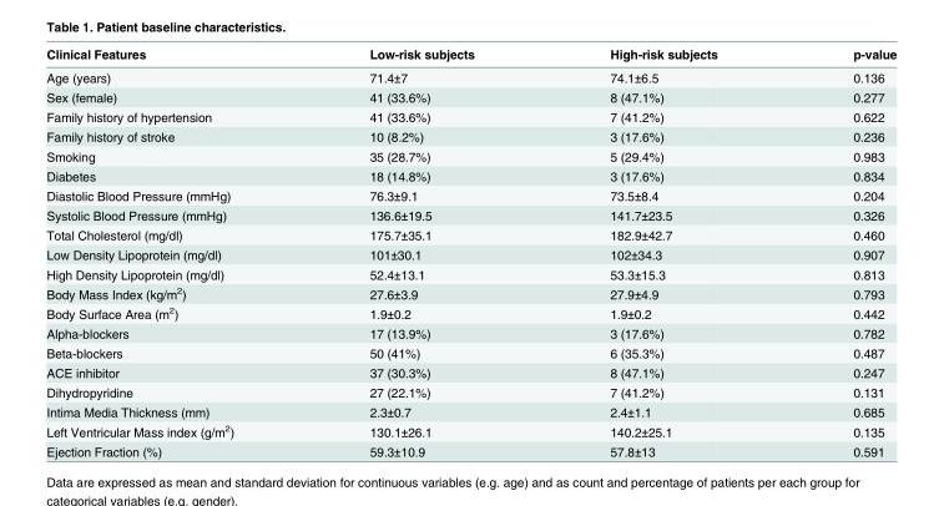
<table><thead><tr><td>Clinical Features</td><td>Low-risk subjects</td><td>High-risk subjects</td><td>p-value</td></tr></thead><tbody><tr><td>Age (years)</td><td>71.4±7</td><td>74.1±6.5</td><td>0.136</td></tr><tr><td>Sex (female)</td><td>41 (33.6%)</td><td>8 (47.1%)</td><td>0.277</td></tr><tr><td>Family history of hypertension</td><td>41 (33.6%)</td><td>7 (41.2%)</td><td>0.622</td></tr><tr><td>Family history of stroke</td><td>10 (8.2%)</td><td>3 (17.6%)</td><td>0.236</td></tr><tr><td>Smoking</td><td>35 (28.7%)</td><td>5 (29.4%)</td><td>0.983</td></tr><tr><td>Diabetes</td><td>18 (14.8%)</td><td>3 (17.6%)</td><td>0.834</td></tr><tr><td>Diastolic Blood Pressure (mmHg)</td><td>76.3±9.1</td><td>73.5±8.4</td><td>0.204</td></tr><tr><td>Systolic Blood Pressure (mmHg)</td><td>136.6±19.5</td><td>141.7±23.5</td><td>0.326</td></tr><tr><td>Total Cholesterol (mg/dl)</td><td>175.7±35.1</td><td>182.9±42.7</td><td>0.460</td></tr><tr><td>Low Density Lipoprotein (mg/dl)</td><td>101±30.1</td><td>102±34.3</td><td>0.907</td></tr><tr><td>High Density Lipoprotein (mg/dl)</td><td>52.4±13.1</td><td>53.3±15.3</td><td>0.813</td></tr><tr><td>Body Mass Index (kg/m<sup>2</sup>)</td><td>27.6±3.9</td><td>27.9±4.9</td><td>0.793</td></tr><tr><td>Body Surface Area (m<sup>2</sup>)</td><td>1.9±0.2</td><td>1.9±0.2</td><td>0.442</td></tr><tr><td>Alpha-blockers</td><td>17 (13.9%)</td><td>3 (17.6%)</td><td>0.782</td></tr><tr><td>Beta-blockers</td><td>50 (41%)</td><td>6 (35.3%)</td><td>0.487</td></tr><tr><td>ACE inhibitor</td><td>37 (30.3%)</td><td>8 (47.1%)</td><td>0.247</td></tr><tr><td>Dihydropyridine</td><td>27 (22.1%)</td><td>7 (41.2%)</td><td>0.131</td></tr><tr><td>Intima Media Thickness (mm)</td><td>2.3±0.7</td><td>2.4±1.1</td><td>0.685</td></tr><tr><td>Left Ventricular Mass index (g/m<sup>2</sup>)</td><td>130.1±26.1</td><td>140.2±25.1</td><td>0.135</td></tr><tr><td>Ejection Fraction (%)</td><td>59.3±10.9</td><td>57.8±13</td><td>0.591</td></tr></tbody></table>